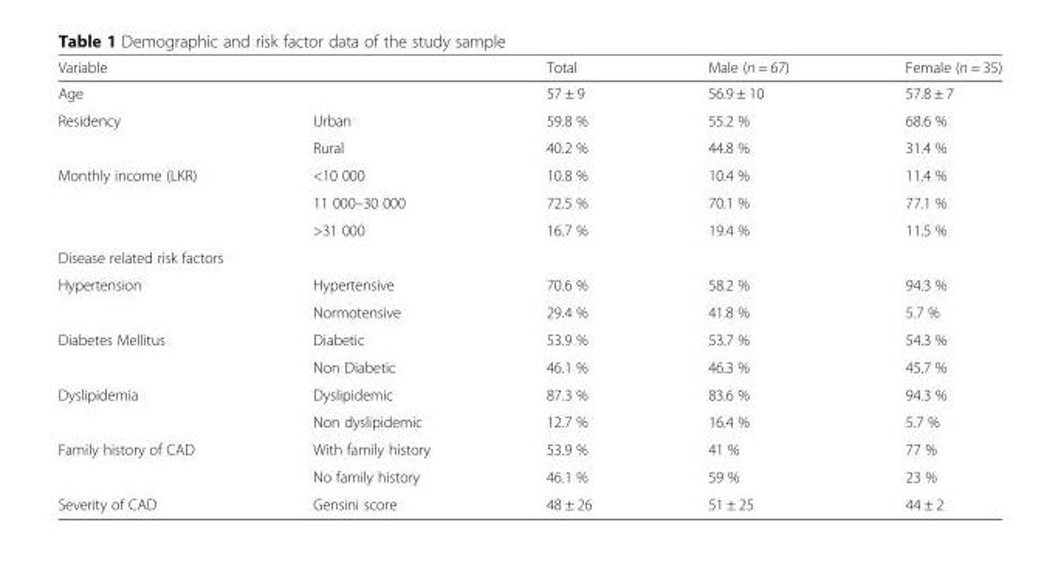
<table><thead><tr><td colspan="2">Variable</td><td rowspan="2">Total 57 ± 9</td><td rowspan="2">Male (n = 67) 56.9 ± 10</td><td rowspan="2">Female (n = 35) 57.8 ± 7</td></tr><tr><td>Age</td><td></td></tr></thead><tbody><tr><td rowspan="2">Residency</td><td>Urban</td><td>59.8 %</td><td>55.2 %</td><td>68.6 %</td></tr><tr><td>Rural</td><td>40.2 %</td><td>44.8 %</td><td>31.4 %</td></tr><tr><td rowspan="3">Monthly income (LKR)</td><td>&lt;10 000</td><td>10.8 %</td><td>10.4 %</td><td>11.4 %</td></tr><tr><td>11 000–30 000</td><td>72.5 %</td><td>70.1 %</td><td>77.1 %</td></tr><tr><td>&gt;31 000</td><td>16.7 %</td><td>19.4 %</td><td>11.5 %</td></tr><tr><td colspan="5">Disease related risk factors</td></tr><tr><td rowspan="2">Hypertension</td><td>Hypertensive</td><td>70.6 %</td><td>58.2 %</td><td>94.3 %</td></tr><tr><td>Normotensive</td><td>29.4 %</td><td>41.8 %</td><td>5.7 %</td></tr><tr><td rowspan="2">Diabetes Mellitus</td><td>Diabetic</td><td>53.9 %</td><td>53.7 %</td><td>54.3 %</td></tr><tr><td>Non Diabetic</td><td>46.1 %</td><td>46.3 %</td><td>45.7 %</td></tr><tr><td rowspan="2">Dyslipidemia</td><td>Dyslipidemic</td><td>87.3 %</td><td>83.6 %</td><td>94.3 %</td></tr><tr><td>Non dyslipidemic</td><td>12.7 %</td><td>16.4 %</td><td>5.7 %</td></tr><tr><td rowspan="2">Family history of CAD</td><td>With family history</td><td>53.9 %</td><td>41 %</td><td>77 %</td></tr><tr><td>No family history</td><td>46.1 %</td><td>59 %</td><td>23 %</td></tr><tr><td>Severity of CAD</td><td>Gensini score</td><td>48 ± 26</td><td>51 ± 25</td><td>44 ± 2</td></tr></tbody></table>